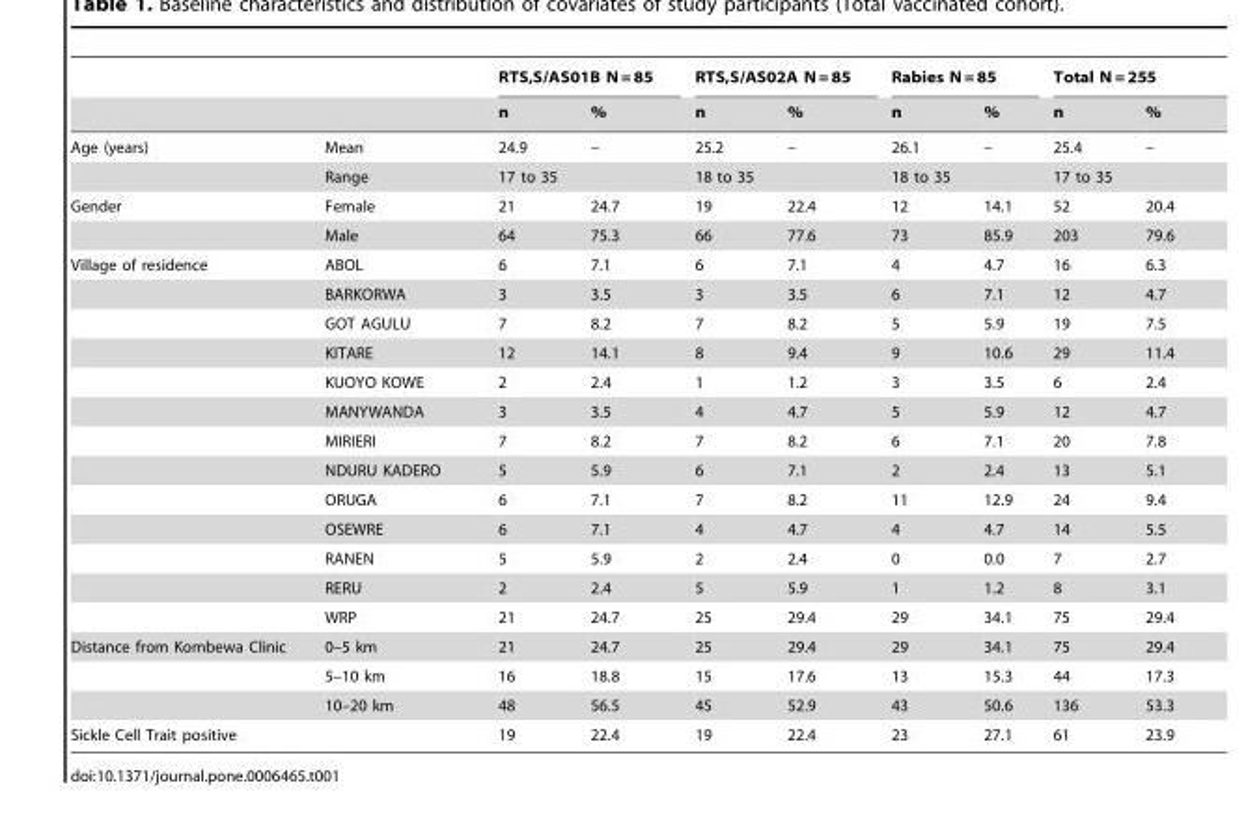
<table><thead><tr><td rowspan="2"></td><td rowspan="2"></td><td colspan="2">RTS,S/AS01B N = 85</td><td colspan="2">RTS,S/AS02A N = 85</td><td colspan="2">Rabies N = 85</td><td colspan="2">Total N = 255</td></tr><tr><td>n</td><td>%</td><td>n</td><td>%</td><td>n</td><td>%</td><td>n</td><td>%</td></tr></thead><tbody><tr><td rowspan="2">Age (years)</td><td>Mean</td><td>24.9</td><td>–</td><td>25.2</td><td>–</td><td>26.1</td><td>–</td><td>25.4</td><td>–</td></tr><tr><td>Range</td><td colspan="2">17 to 35</td><td colspan="2">18 to 35</td><td colspan="2">18 to 35</td><td colspan="2">17 to 35</td></tr><tr><td rowspan="2">Gender</td><td>Female</td><td>21</td><td>24.7</td><td>19</td><td>22.4</td><td>12</td><td>14.1</td><td>52</td><td>20.4</td></tr><tr><td>Male</td><td>64</td><td>75.3</td><td>66</td><td>77.6</td><td>73</td><td>85.9</td><td>203</td><td>79.6</td></tr><tr><td rowspan="13">Village of residence</td><td>ABOL</td><td>6</td><td>7.1</td><td>6</td><td>7.1</td><td>4</td><td>4.7</td><td>16</td><td>6.3</td></tr><tr><td>BARKORWA</td><td>3</td><td>3.5</td><td>3</td><td>3.5</td><td>6</td><td>7.1</td><td>12</td><td>4.7</td></tr><tr><td>GOT AGULU</td><td>7</td><td>8.2</td><td>7</td><td>8.2</td><td>5</td><td>5.9</td><td>19</td><td>7.5</td></tr><tr><td>KITARE</td><td>12</td><td>14.1</td><td>8</td><td>9.4</td><td>9</td><td>10.6</td><td>29</td><td>11.4</td></tr><tr><td>KUOYO KOWE</td><td>2</td><td>2.4</td><td>1</td><td>1.2</td><td>3</td><td>3.5</td><td>6</td><td>2.4</td></tr><tr><td>MANYWANDA</td><td>3</td><td>3.5</td><td>4</td><td>4.7</td><td>5</td><td>5.9</td><td>12</td><td>4.7</td></tr><tr><td>MIRIERI</td><td>7</td><td>8.2</td><td>7</td><td>8.2</td><td>6</td><td>7.1</td><td>20</td><td>7.8</td></tr><tr><td>NDURU KADERO</td><td>5</td><td>5.9</td><td>6</td><td>7.1</td><td>2</td><td>2.4</td><td>13</td><td>5.1</td></tr><tr><td>ORUGA</td><td>6</td><td>7.1</td><td>7</td><td>8.2</td><td>11</td><td>12.9</td><td>24</td><td>9.4</td></tr><tr><td>OSEWRE</td><td>6</td><td>7.1</td><td>4</td><td>4.7</td><td>4</td><td>4.7</td><td>14</td><td>5.5</td></tr><tr><td>RANEN</td><td>5</td><td>5.9</td><td>2</td><td>2.4</td><td>0</td><td>0.0</td><td>7</td><td>2.7</td></tr><tr><td>RERU</td><td>2</td><td>2.4</td><td>5</td><td>5.9</td><td>1</td><td>1.2</td><td>8</td><td>3.1</td></tr><tr><td>WRP</td><td>21</td><td>24.7</td><td>25</td><td>29.4</td><td>29</td><td>34.1</td><td>75</td><td>29.4</td></tr><tr><td rowspan="3">Distance from Kombewa Clinic</td><td>0–5 km</td><td>21</td><td>24.7</td><td>25</td><td>29.4</td><td>29</td><td>34.1</td><td>75</td><td>29.4</td></tr><tr><td>5–10 km</td><td>16</td><td>18.8</td><td>15</td><td>17.6</td><td>13</td><td>15.3</td><td>44</td><td>17.3</td></tr><tr><td>10–20 km</td><td>48</td><td>56.5</td><td>45</td><td>52.9</td><td>43</td><td>50.6</td><td>136</td><td>53.3</td></tr><tr><td colspan="2">Sickle Cell Trait positive</td><td>19</td><td>22.4</td><td>19</td><td>22.4</td><td>23</td><td>27.1</td><td>61</td><td>23.9</td></tr></tbody></table>